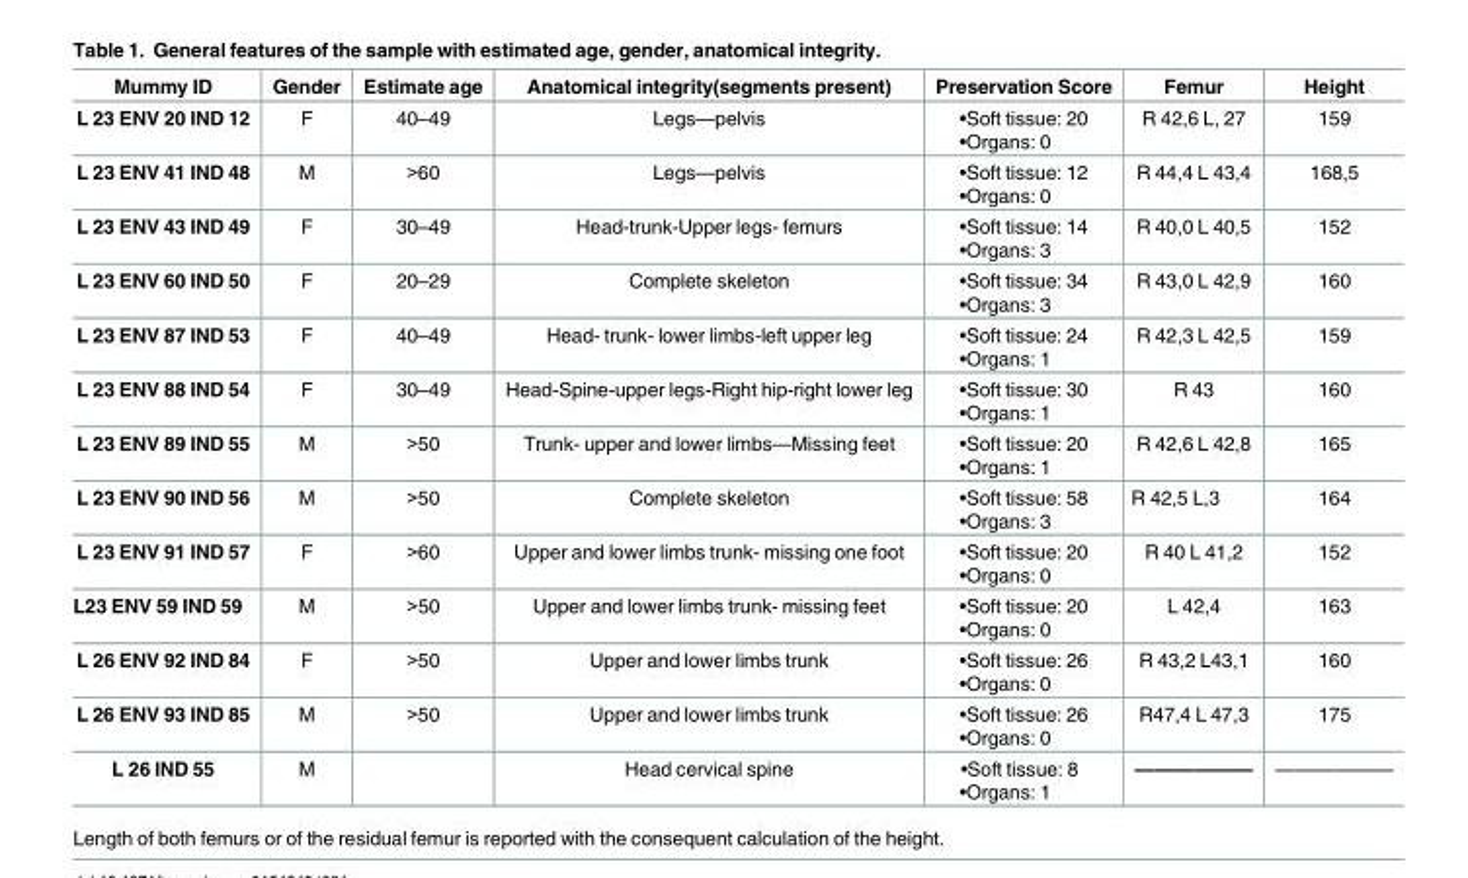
<table><thead><tr><td>Mummy ID</td><td>Gender</td><td>Estimate age</td><td>Anatomical integrity(segments present)</td><td>Preservation Score</td><td>Femur</td><td>Height</td></tr></thead><tbody><tr><td>L 23 ENV 20 IND 12</td><td>F</td><td>40–49</td><td>Legs—pelvis</td><td>•Soft tissue: 20 •Organs: 0</td><td>R 42,6 L, 27</td><td>159</td></tr><tr><td>L 23 ENV 41 IND 48</td><td>M</td><td>&gt;60</td><td>Legs—pelvis</td><td>•Soft tissue: 12 •Organs: 0</td><td>R 44,4 L 43,4</td><td>168,5</td></tr><tr><td>L 23 ENV 43 IND 49</td><td>F</td><td>30–49</td><td>Head-trunk-Upper legs- femurs</td><td>•Soft tissue: 14 •Organs: 3</td><td>R 40,0 L 40,5</td><td>152</td></tr><tr><td>L 23 ENV 60 IND 50</td><td>F</td><td>20–29</td><td>Complete skeleton</td><td>•Soft tissue: 34 •Organs: 3</td><td>R 43,0 L 42,9</td><td>160</td></tr><tr><td>L 23 ENV 87 IND 53</td><td>F</td><td>40–49</td><td>Head- trunk- lower limbs-left upper leg</td><td>•Soft tissue: 24 •Organs: 1</td><td>R 42,3 L 42,5</td><td>159</td></tr><tr><td>L 23 ENV 88 IND 54</td><td>F</td><td>30–49</td><td>Head-Spine-upper legs-Right hip-right lower leg</td><td>•Soft tissue: 30 •Organs: 1</td><td>R 43</td><td>160</td></tr><tr><td>L 23 ENV 89 IND 55</td><td>M</td><td>&gt;50</td><td>Trunk- upper and lower limbs—Missing feet</td><td>•Soft tissue: 20 •Organs: 1</td><td>R 42,6 L 42,8</td><td>165</td></tr><tr><td>L 23 ENV 90 IND 56</td><td>M</td><td>&gt;50</td><td>Complete skeleton</td><td>•Soft tissue: 58 •Organs: 3</td><td>R 42,5 L,3</td><td>164</td></tr><tr><td>L 23 ENV 91 IND 57</td><td>F</td><td>&gt;60</td><td>Upper and lower limbs trunk- missing one foot</td><td>•Soft tissue: 20 •Organs: 0</td><td>R 40 L 41,2</td><td>152</td></tr><tr><td>L23 ENV 59 IND 59</td><td>M</td><td>&gt;50</td><td>Upper and lower limbs trunk- missing feet</td><td>•Soft tissue: 20 •Organs: 0</td><td>L 42,4</td><td>163</td></tr><tr><td>L 26 ENV 92 IND 84</td><td>F</td><td>&gt;50</td><td>Upper and lower limbs trunk</td><td>•Soft tissue: 26 •Organs: 0</td><td>R 43,2 L43,1</td><td>160</td></tr><tr><td>L 26 ENV 93 IND 85</td><td>M</td><td>&gt;50</td><td>Upper and lower limbs trunk</td><td>•Soft tissue: 26 •Organs: 0</td><td>R47,4 L 47,3</td><td>175</td></tr><tr><td>L 26 IND 55</td><td>M</td><td></td><td>Head cervical spine</td><td>•Soft tissue: 8 •Organs: 1</td><td>——————</td><td>——————</td></tr></tbody></table>